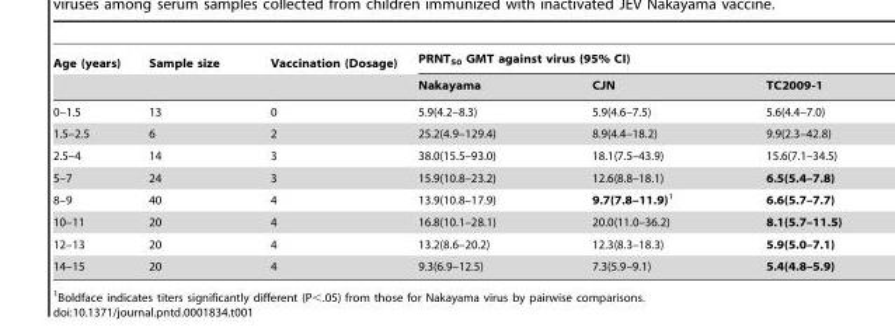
<table><thead><tr><td rowspan="2">Age (years)</td><td rowspan="2">Sample size</td><td rowspan="2">Vaccination (Dosage)</td><td colspan="3">PRNT<sub>50</sub> GMT against virus (95% CI)</td></tr><tr><td>Nakayama</td><td>CJN</td><td>TC2009-1</td></tr></thead><tbody><tr><td>0–1.5</td><td>13</td><td>0</td><td>5.9(4.2–8.3)</td><td>5.9(4.6–7.5)</td><td>5.6(4.4–7.0)</td></tr><tr><td>1.5–2.5</td><td>6</td><td>2</td><td>25.2(4.9–129.4)</td><td>8.9(4.4–18.2)</td><td>9.9(2.3–42.8)</td></tr><tr><td>2.5–4</td><td>14</td><td>3</td><td>38.0(15.5–93.0)</td><td>18.1(7.5–43.9)</td><td>15.6(7.1–34.5)</td></tr><tr><td>5–7</td><td>24</td><td>3</td><td>15.9(10.8–23.2)</td><td>12.6(8.8–18.1)</td><td>6.5(5.4–7.8)</td></tr><tr><td>8–9</td><td>40</td><td>4</td><td>13.9(10.8–17.9)</td><td>9.7(7.8–11.9)1</td><td>6.6(5.7–7.7)</td></tr><tr><td>10–11</td><td>20</td><td>4</td><td>16.8(10.1–28.1)</td><td>20.0(11.0–36.2)</td><td>8.1(5.7–11.5)</td></tr><tr><td>12–13</td><td>20</td><td>4</td><td>13.2(8.6–20.2)</td><td>12.3(8.3–18.3)</td><td>5.9(5.0–7.1)</td></tr><tr><td>14–15</td><td>20</td><td>4</td><td>9.3(6.9–12.5)</td><td>7.3(5.9–9.1)</td><td>5.4(4.8–5.9)</td></tr></tbody></table>